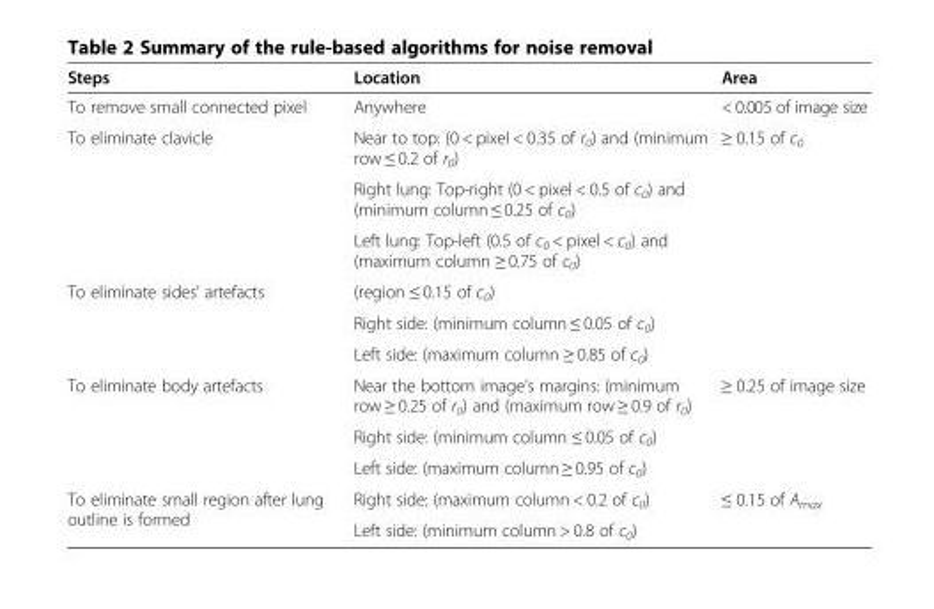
<table><thead><tr><td>Steps</td><td>Location</td><td>Area</td></tr></thead><tbody><tr><td>To remove small connected pixel</td><td>Anywhere</td><td>&lt; 0.005 of image size</td></tr><tr><td rowspan="3">To eliminate clavicle</td><td>Near to top: (0 &lt; pixel &lt; 0.35 of r<sub>0</sub>) and (minimum row ≤ 0.2 of r<sub>0</sub>)</td><td rowspan="3">≥ 0.15 of c<sub>0</sub></td></tr><tr><td>Right lung: Top-right (0 &lt; pixel &lt; 0.5 of c<sub>0</sub>) and (minimum column ≤ 0.25 of c<sub>0</sub>)</td></tr><tr><td>Left lung: Top-left (0.5 of c<sub>0</sub> &lt; pixel &lt; c<sub>0</sub>) and (maximum column ≥ 0.75 of c<sub>0</sub>)</td></tr><tr><td rowspan="3">To eliminate sides’ artefacts</td><td>(region ≤ 0.15 of c<sub>0</sub>)</td><td rowspan="3"></td></tr><tr><td>Right side: (minimum column ≤ 0.05 of c<sub>0</sub>)</td></tr><tr><td>Left side: (maximum column ≥ 0.85 of c<sub>0</sub>)</td></tr><tr><td rowspan="3">To eliminate body artefacts</td><td>Near the bottom image’s margins: (minimum row ≥ 0.25 of r<sub>0</sub>) and (maximum row ≥ 0.9 of r<sub>0</sub>)</td><td rowspan="3">≥ 0.25 of image size</td></tr><tr><td>Right side: (minimum column ≤ 0.05 of c<sub>0</sub>)</td></tr><tr><td>Left side: (maximum column ≥ 0.95 of c<sub>0</sub>)</td></tr><tr><td rowspan="2">To eliminate small region after lung outline is formed</td><td>Right side: (maximum column &lt; 0.2 of c<sub>0</sub>)</td><td rowspan="2">≤ 0.15 of A<sub>max</sub></td></tr><tr><td>Left side: (minimum column &gt; 0.8 of c<sub>0</sub>)</td></tr></tbody></table>